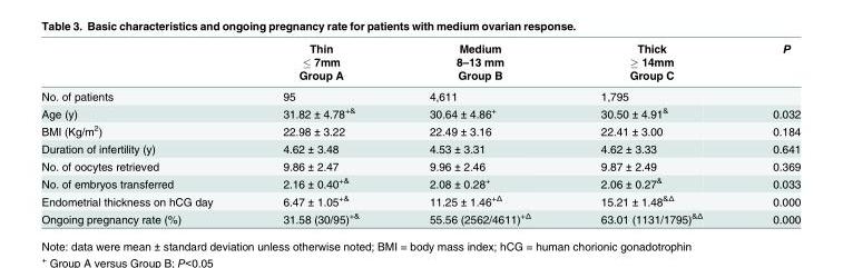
<table><thead><tr><td rowspan="3"></td><td rowspan="3">Thin ≤ 7mm Group A</td><td rowspan="3">Medium 8–13 mm Group B</td><td rowspan="3">Thick ≥ 14mm Group C</td><td rowspan="3">P</td></tr><tr></tr><tr></tr></thead><tbody><tr><td>No. of patients</td><td>95</td><td>4,611</td><td>1,795</td><td></td></tr><tr><td>Age (y)</td><td>31.82 ± 4.78<sup>+&amp;</sup></td><td>30.64 ± 4.86<sup>+</sup></td><td>30.50 ± 4.91<sup>&amp;</sup></td><td>0.032</td></tr><tr><td>BMI (Kg/m<sup>2</sup>)</td><td>22.98 ± 3.22</td><td>22.49 ± 3.16</td><td>22.41 ± 3.00</td><td>0.184</td></tr><tr><td>Duration of infertility (y)</td><td>4.62 ± 3.48</td><td>4.53 ± 3.31</td><td>4.62 ± 3.33</td><td>0.641</td></tr><tr><td>No. of oocytes retrieved</td><td>9.86 ± 2.47</td><td>9.96 ± 2.46</td><td>9.87 ± 2.49</td><td>0.369</td></tr><tr><td>No. of embryos transferred</td><td>2.16 ± 0.40<sup>+&amp;</sup></td><td>2.08 ± 0.28<sup>+</sup></td><td>2.06 ± 0.27<sup>&amp;</sup></td><td>0.033</td></tr><tr><td>Endometrial thickness on hCG day</td><td>6.47 ± 1.05<sup>+&amp;</sup></td><td>11.25 ± 1.46<sup>+Δ</sup></td><td>15.21 ± 1.48<sup>&amp;Δ</sup></td><td>0.000</td></tr><tr><td>Ongoing pregnancy rate (%)</td><td>31.58 (30/95)<sup>+&amp;</sup></td><td>55.56 (2562/4611)<sup>+Δ</sup></td><td>63.01 (1131/1795)<sup>&amp;Δ</sup></td><td>0.000</td></tr></tbody></table>